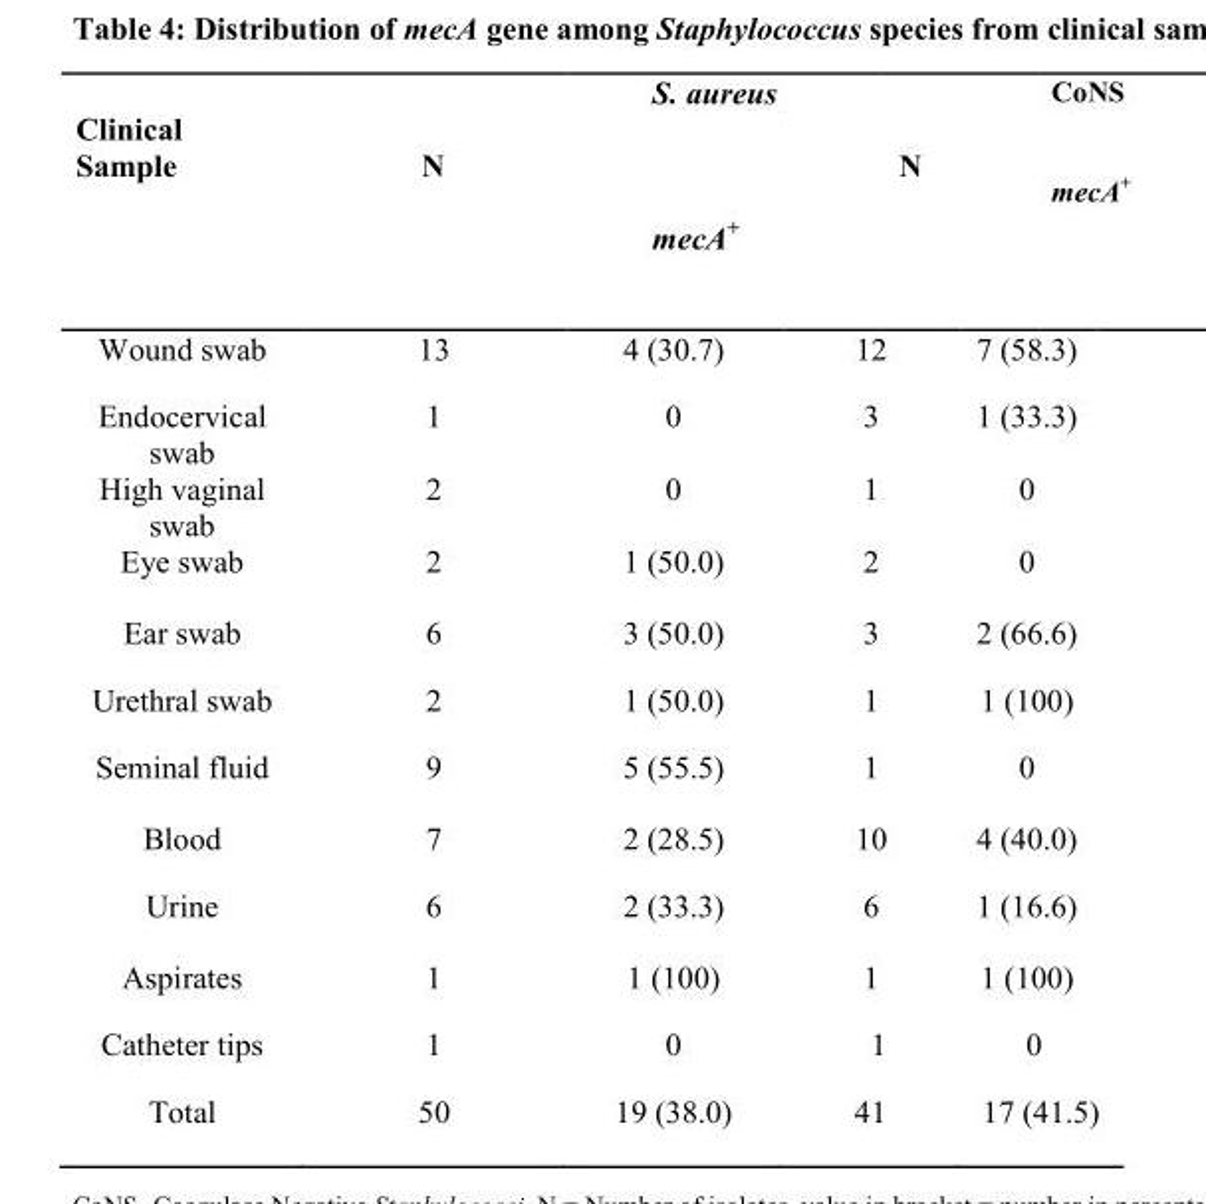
<table><thead><tr><td>Clinical Sample</td><td>N</td><td>S. aureus mecA<sup>+</sup></td><td>N</td><td>CoNS mecA<sup>+</sup></td></tr></thead><tbody><tr><td>Wound swab</td><td>13</td><td>4 (30.7)</td><td>12</td><td>7 (58.3)</td></tr><tr><td>Endocervical swab</td><td>1</td><td>0</td><td>3</td><td>1 (33.3)</td></tr><tr><td>High vaginal swab</td><td>2</td><td>0</td><td>1</td><td>0</td></tr><tr><td>Eye swab</td><td>2</td><td>1 (50.0)</td><td>2</td><td>0</td></tr><tr><td>Ear swab</td><td>6</td><td>3 (50.0)</td><td>3</td><td>2 (66.6)</td></tr><tr><td>Urethral swab</td><td>2</td><td>1 (50.0)</td><td>1</td><td>1 (100)</td></tr><tr><td>Seminal fluid</td><td>9</td><td>5 (55.5)</td><td>1</td><td>0</td></tr><tr><td>Blood</td><td>7</td><td>2 (28.5)</td><td>10</td><td>4 (40.0)</td></tr><tr><td>Urine</td><td>6</td><td>2 (33.3)</td><td>6</td><td>1 (16.6)</td></tr><tr><td>Aspirates</td><td>1</td><td>1 (100)</td><td>1</td><td>1 (100)</td></tr><tr><td>Catheter tips</td><td>1</td><td>0</td><td>1</td><td>0</td></tr><tr><td>Total</td><td>50</td><td>19 (38.0)</td><td>41</td><td>17 (41.5)</td></tr></tbody></table>